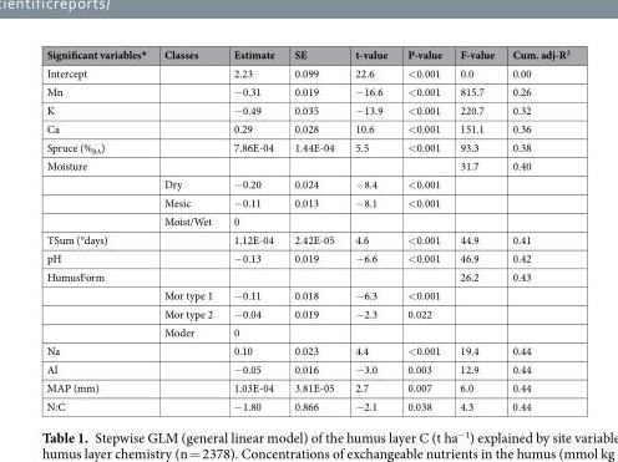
<table><thead><tr><td>Significant variables*</td><td>Classes</td><td>Estimate</td><td>SE</td><td>t-value</td><td>P-value</td><td>F-value</td><td>Cum. adj-R<sup>2</sup></td></tr></thead><tbody><tr><td>Intercept</td><td></td><td>2.23</td><td>0.099</td><td>22.6</td><td>&lt;0.001</td><td>0.0</td><td>0.00</td></tr><tr><td>Mn</td><td></td><td>−0.31</td><td>0.019</td><td>−16.6</td><td>&lt;0.001</td><td>815.7</td><td>0.26</td></tr><tr><td>K</td><td></td><td>−0.49</td><td>0.035</td><td>−13.9</td><td>&lt;0.001</td><td>220.7</td><td>0.32</td></tr><tr><td>Ca</td><td></td><td>0.29</td><td>0.028</td><td>10.6</td><td>&lt;0.001</td><td>151.1</td><td>0.36</td></tr><tr><td>Spruce (%<sub>BA</sub>)</td><td></td><td>7.86E-04</td><td>1.44E-04</td><td>5.5</td><td>&lt;0.001</td><td>93.3</td><td>0.38</td></tr><tr><td rowspan="4">Moisture</td><td></td><td></td><td></td><td></td><td></td><td>31.7</td><td>0.40</td></tr><tr><td>Dry</td><td>−0.20</td><td>0.024</td><td>−8.4</td><td>&lt;0.001</td><td></td><td></td></tr><tr><td>Mesic</td><td>−0.11</td><td>0.013</td><td>−8.1</td><td>&lt;0.001</td><td></td><td></td></tr><tr><td>Moist/Wet</td><td>0</td><td></td><td></td><td></td><td></td><td></td></tr><tr><td>TSum (°days)</td><td></td><td>1.12E-04</td><td>2.42E-05</td><td>4.6</td><td>&lt;0.001</td><td>44.9</td><td>0.41</td></tr><tr><td>pH</td><td></td><td>−0.13</td><td>0.019</td><td>−6.6</td><td>&lt;0.001</td><td>46.9</td><td>0.42</td></tr><tr><td rowspan="4">HumusForm</td><td></td><td></td><td></td><td></td><td></td><td>26.2</td><td>0.43</td></tr><tr><td>Mor type 1</td><td>−0.11</td><td>0.018</td><td>−6.3</td><td>&lt;0.001</td><td></td><td></td></tr><tr><td>Mor type 2</td><td>−0.04</td><td>0.019</td><td>−2.3</td><td>0.022</td><td></td><td></td></tr><tr><td>Moder</td><td>0</td><td></td><td></td><td></td><td></td><td></td></tr><tr><td>Na</td><td></td><td>0.10</td><td>0.023</td><td>4.4</td><td>&lt;0.001</td><td>19.4</td><td>0.44</td></tr><tr><td>Al</td><td></td><td>−0.05</td><td>0.016</td><td>−3.0</td><td>0.003</td><td>12.9</td><td>0.44</td></tr><tr><td>MAP (mm)</td><td></td><td>1.03E-04</td><td>3.81E-05</td><td>2.7</td><td>0.007</td><td>6.0</td><td>0.44</td></tr><tr><td>N:C</td><td></td><td>−1.80</td><td>0.866</td><td>−2.1</td><td>0.038</td><td>4.3</td><td>0.44</td></tr></tbody></table>